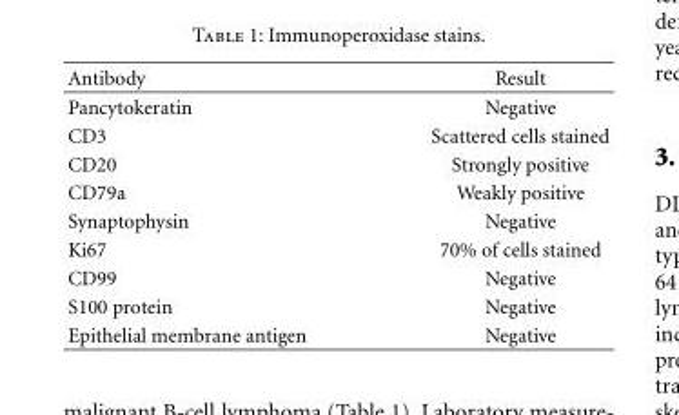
<table><thead><tr><td>Antibody</td><td>Result</td></tr></thead><tbody><tr><td>Pancytokeratin</td><td>Negative</td></tr><tr><td>CD3</td><td>Scattered cells stained</td></tr><tr><td>CD20</td><td>Strongly positive</td></tr><tr><td>CD79a</td><td>Weakly positive</td></tr><tr><td>Synaptophysin</td><td>Negative</td></tr><tr><td>Ki67</td><td>70% of cells stained</td></tr><tr><td>CD99</td><td>Negative</td></tr><tr><td>S100 protein</td><td>Negative</td></tr><tr><td>Epithelial membrane antigen</td><td>Negative</td></tr></tbody></table>